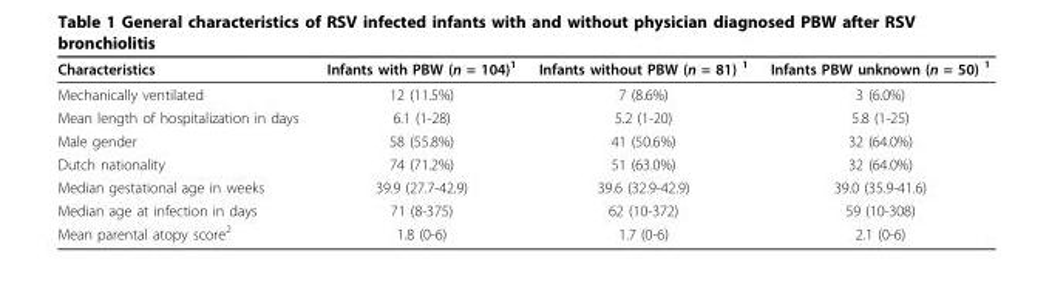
<table><thead><tr><td>Characteristics</td><td>Infants with PBW (n = 104)<sup>1</sup></td><td>Infants without PBW (n = 81) <sup>1</sup></td><td>Infants PBW unknown (n = 50) <sup>1</sup></td></tr></thead><tbody><tr><td>Mechanically ventilated</td><td>12 (11.5%)</td><td>7 (8.6%)</td><td>3 (6.0%)</td></tr><tr><td>Mean length of hospitalization in days</td><td>6.1 (1-28)</td><td>5.2 (1-20)</td><td>5.8 (1-25)</td></tr><tr><td>Male gender</td><td>58 (55.8%)</td><td>41 (50.6%)</td><td>32 (64.0%)</td></tr><tr><td>Dutch nationality</td><td>74 (71.2%)</td><td>51 (63.0%)</td><td>32 (64.0%)</td></tr><tr><td>Median gestational age in weeks</td><td>39.9 (27.7-42.9)</td><td>39.6 (32.9-42.9)</td><td>39.0 (35.9-41.6)</td></tr><tr><td>Median age at infection in days</td><td>71 (8-375)</td><td>62 (10-372)</td><td>59 (10-308)</td></tr><tr><td>Mean parental atopy score<sup>2</sup></td><td>1.8 (0-6)</td><td>1.7 (0-6)</td><td>2.1 (0-6)</td></tr></tbody></table>